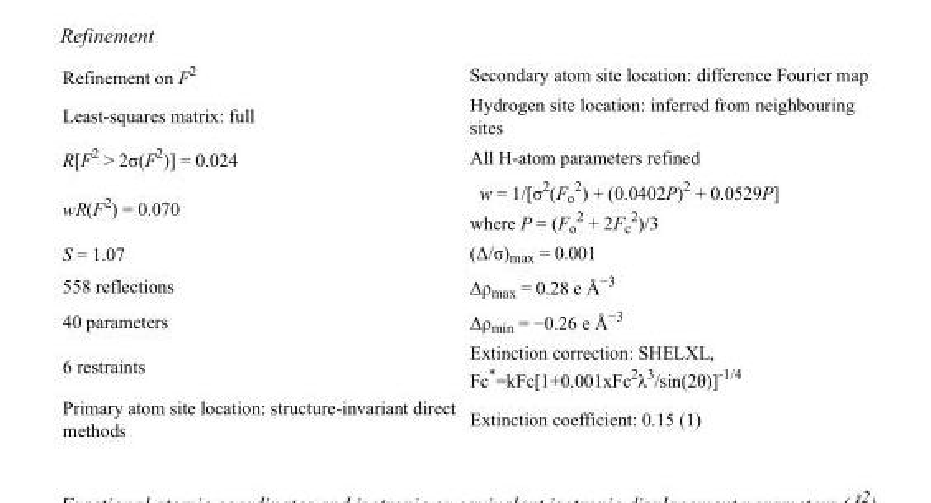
<table><tbody><tr><td>Refinement on F<sup>2</sup></td><td>Secondary atom site location: difference Fourier map</td></tr><tr><td>Least-squares matrix: full</td><td>Hydrogen site location: inferred from neighbouring sites</td></tr><tr><td>R[F<sup>2</sup> &gt; 2σ(F<sup>2</sup>)] = 0.024</td><td>All H-atom parameters refined</td></tr><tr><td>wR(F<sup>2</sup>) = 0.070</td><td>w = 1/[σ<sup>2</sup>(F<sub>o</sub> <sup>2</sup>) + (0.0402P)<sup>2</sup> + 0.0529P] where P = (F<sub>o</sub> <sup>2</sup> + 2F<sub>c</sub> <sup>2</sup>)/3</td></tr><tr><td>S = 1.07</td><td>(Δ/σ)<sub>max</sub> = 0.001</td></tr><tr><td>558 reflections</td><td>Δρ<sub>max</sub> = 0.28 e Å<sup>−3</sup></td></tr><tr><td>40 parameters</td><td>Δρ<sub>min</sub> = −0.26 e Å<sup>−3</sup></td></tr><tr><td>6 restraints</td><td>Extinction correction: SHELXL, Fc*=kFc[1+0.001xFc<sup>2</sup>λ<sup>3</sup>/sin(2θ)]<sup>-1/4</sup></td></tr><tr><td>Primary atom site location: structure-invariant direct methods</td><td>Extinction coefficient: 0.15 (1)</td></tr></tbody></table>